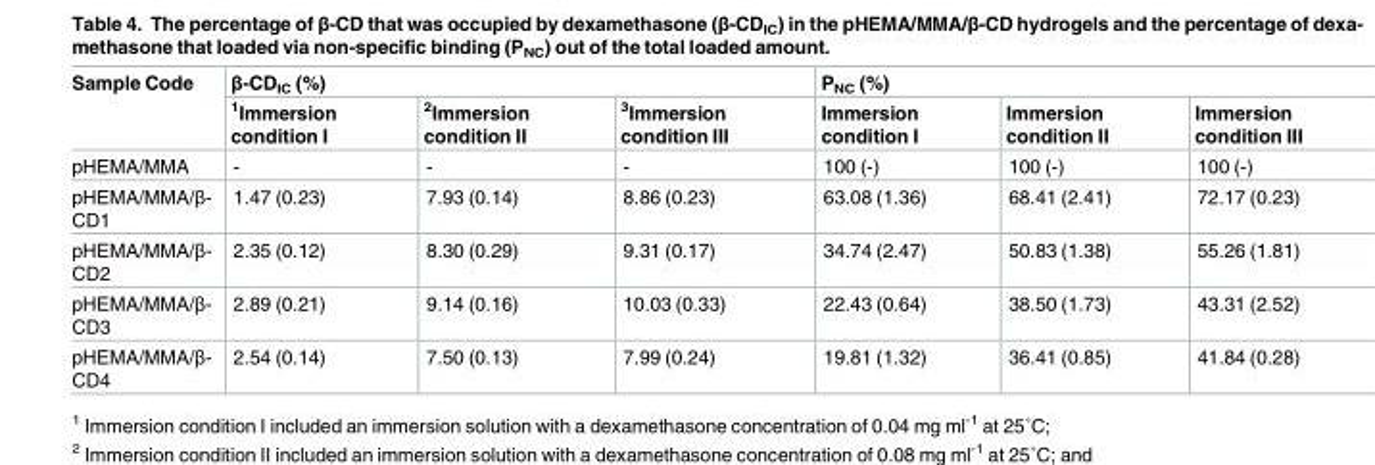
<table><thead><tr><td rowspan="2">Sample Code</td><td colspan="3">β-CD<sub>IC</sub> (%)</td><td colspan="3">P<sub>NC</sub> (%)</td></tr><tr><td><sup>1</sup>Immersion condition I</td><td><sup>2</sup>Immersion condition II</td><td><sup>3</sup>Immersion condition III</td><td>Immersion condition I</td><td>Immersion condition II</td><td>Immersion condition III</td></tr></thead><tbody><tr><td>pHEMA/MMA</td><td>-</td><td>-</td><td>-</td><td>100 (-)</td><td>100 (-)</td><td>100 (-)</td></tr><tr><td>pHEMA/MMA/β- CD1</td><td>1.47 (0.23)</td><td>7.93 (0.14)</td><td>8.86 (0.23)</td><td>63.08 (1.36)</td><td>68.41 (2.41)</td><td>72.17 (0.23)</td></tr><tr><td>pHEMA/MMA/β- CD2</td><td>2.35 (0.12)</td><td>8.30 (0.29)</td><td>9.31 (0.17)</td><td>34.74 (2.47)</td><td>50.83 (1.38)</td><td>55.26 (1.81)</td></tr><tr><td>pHEMA/MMA/β- CD3</td><td>2.89 (0.21)</td><td>9.14 (0.16)</td><td>10.03 (0.33)</td><td>22.43 (0.64)</td><td>38.50 (1.73)</td><td>43.31 (2.52)</td></tr><tr><td>pHEMA/MMA/β- CD4</td><td>2.54 (0.14)</td><td>7.50 (0.13)</td><td>7.99 (0.24)</td><td>19.81 (1.32)</td><td>36.41 (0.85)</td><td>41.84 (0.28)</td></tr></tbody></table>